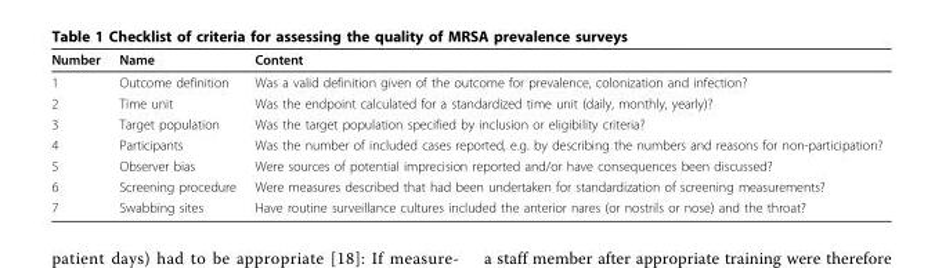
<table><thead><tr><td>Number</td><td>Name</td><td>Content</td></tr></thead><tbody><tr><td>1</td><td>Outcome definition</td><td>Was a valid definition given of the outcome for prevalence, colonization and infection?</td></tr><tr><td>2</td><td>Time unit</td><td>Was the endpoint calculated for a standardized time unit (daily, monthly, yearly)?</td></tr><tr><td>3</td><td>Target population</td><td>Was the target population specified by inclusion or eligibility criteria?</td></tr><tr><td>4</td><td>Participants</td><td>Was the number of included cases reported, e.g. by describing the numbers and reasons for non-participation?</td></tr><tr><td>5</td><td>Observer bias</td><td>Were sources of potential imprecision reported and/or have consequences been discussed?</td></tr><tr><td>6</td><td>Screening procedure</td><td>Were measures described that had been undertaken for standardization of screening measurements?</td></tr><tr><td>7</td><td>Swabbing sites</td><td>Have routine surveillance cultures included the anterior nares (or nostrils or nose) and the throat?</td></tr></tbody></table>